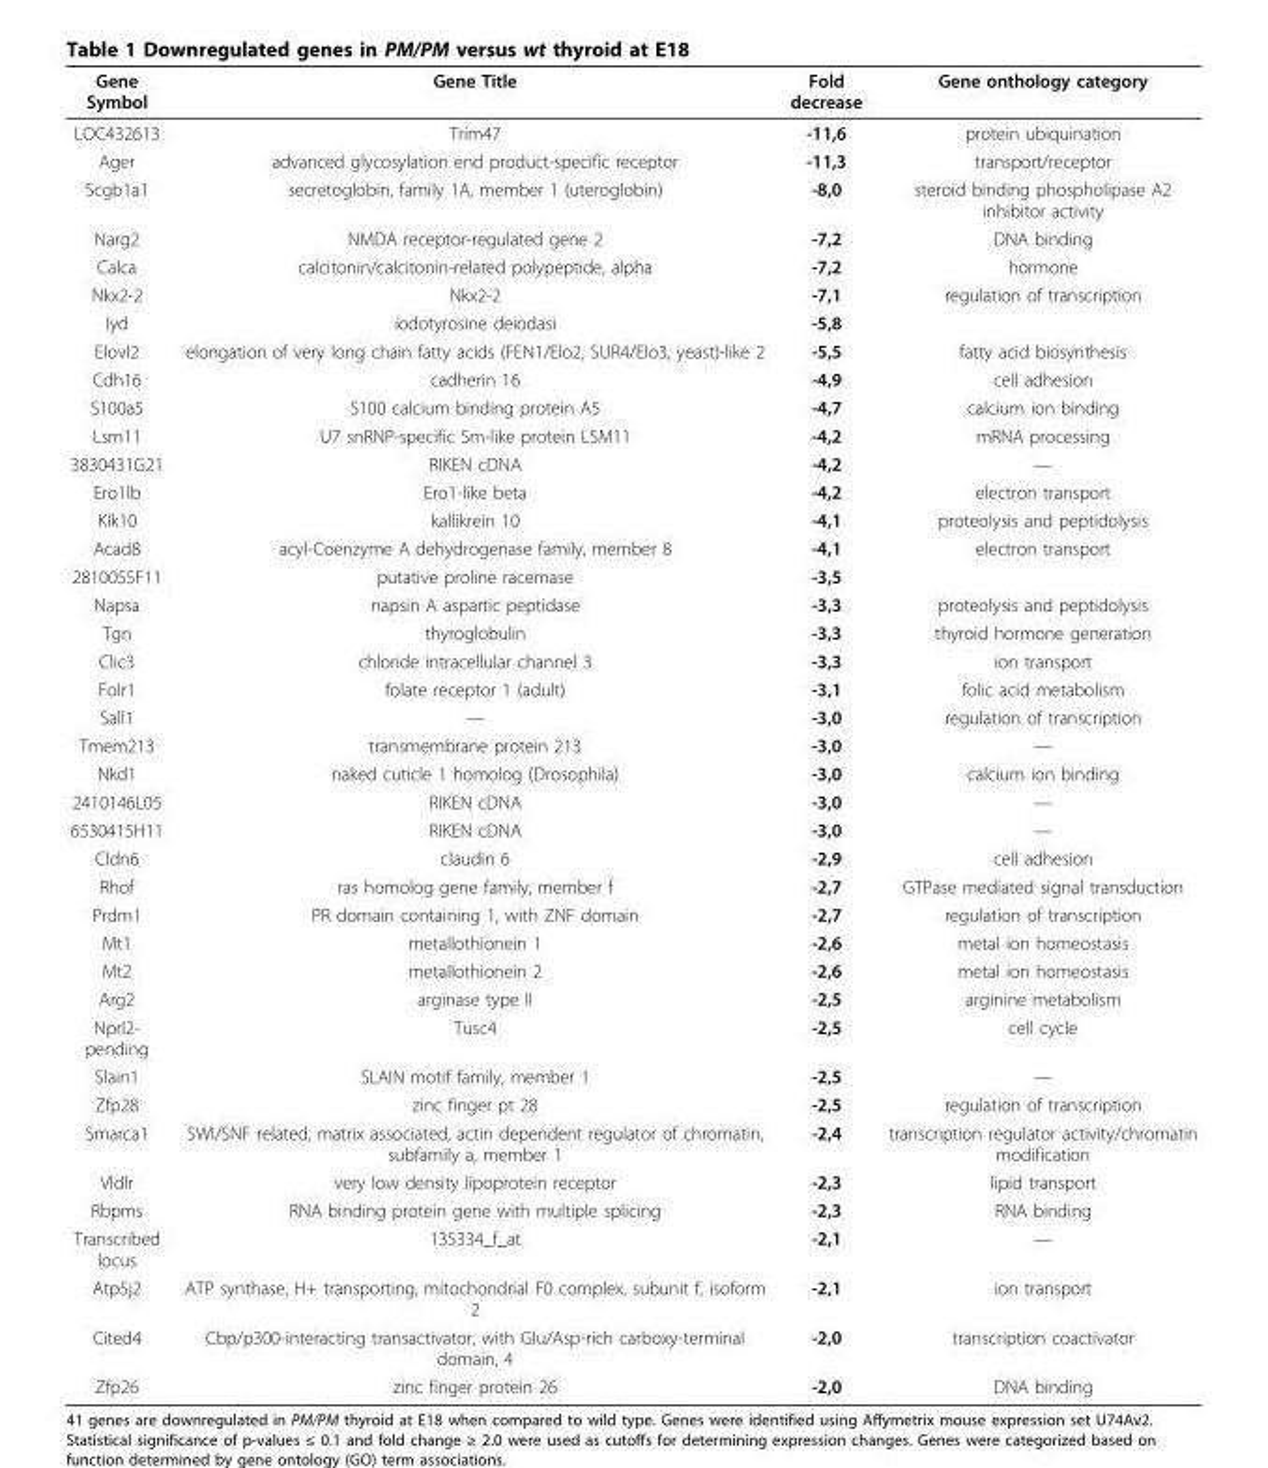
<table><thead><tr><td>Gene Symbol</td><td>Gene Title</td><td>Fold decrease</td><td>Gene onthology category</td></tr></thead><tbody><tr><td>LOC432613</td><td>Trim47</td><td>-11,6</td><td>protein ubiquination</td></tr><tr><td>Ager</td><td>advanced glycosylation end product-specific receptor</td><td>-11,3</td><td>transport/receptor</td></tr><tr><td>Scgb1a1</td><td>secretoglobin, family 1A, member 1 (uteroglobin)</td><td>-8,0</td><td>steroid binding phospholipase A2 inhibitor activity</td></tr><tr><td>Narg2</td><td>NMDA receptor-regulated gene 2</td><td>-7,2</td><td>DNA binding</td></tr><tr><td>Calca</td><td>calcitonin/calcitonin-related polypeptide, alpha</td><td>-7,2</td><td>hormone</td></tr><tr><td>Nkx2-2</td><td>Nkx2-2</td><td>-7,1</td><td>regulation of transcription</td></tr><tr><td>Iyd</td><td>iodotyrosine deiodasi</td><td>-5,8</td><td></td></tr><tr><td>Elovl2</td><td>elongation of very long chain fatty acids (FEN1/Elo2, SUR4/Elo3, yeast)-like 2</td><td>-5,5</td><td>fatty acid biosynthesis</td></tr><tr><td>Cdh16</td><td>cadherin 16</td><td>-4,9</td><td>cell adhesion</td></tr><tr><td>S100a5</td><td>S100 calcium binding protein A5</td><td>-4,7</td><td>calcium ion binding</td></tr><tr><td>Lsm11</td><td>U7 snRNP-specific Sm-like protein LSM11</td><td>-4,2</td><td>mRNA processing</td></tr><tr><td>3830431G21</td><td>RIKEN cDNA</td><td>-4,2</td><td>—</td></tr><tr><td>Ero1lb</td><td>Ero1-like beta</td><td>-4,2</td><td>electron transport</td></tr><tr><td>Klk10</td><td>kallikrein 10</td><td>-4,1</td><td>proteolysis and peptidolysis</td></tr><tr><td>Acad8</td><td>acyl-Coenzyme A dehydrogenase family, member 8</td><td>-4,1</td><td>electron transport</td></tr><tr><td>2810055F11</td><td>putative proline racemase</td><td>-3,5</td><td></td></tr><tr><td>Napsa</td><td>napsin A aspartic peptidase</td><td>-3,3</td><td>proteolysis and peptidolysis</td></tr><tr><td>Tgn</td><td>thyroglobulin</td><td>-3,3</td><td>thyroid hormone generation</td></tr><tr><td>Clic3</td><td>chloride intracellular channel 3</td><td>-3,3</td><td>ion transport</td></tr><tr><td>Folr1</td><td>folate receptor 1 (adult)</td><td>-3,1</td><td>folic acid metabolism</td></tr><tr><td>Sall1</td><td>—</td><td>-3,0</td><td>regulation of transcription</td></tr><tr><td>Tmem213</td><td>transmembrane protein 213</td><td>-3,0</td><td>—</td></tr><tr><td>Nkd1</td><td>naked cuticle 1 homolog (Drosophila)</td><td>-3,0</td><td>calcium ion binding</td></tr><tr><td>2410146L05</td><td>RIKEN cDNA</td><td>-3,0</td><td>—</td></tr><tr><td>6530415H11</td><td>RIKEN cDNA</td><td>-3,0</td><td>—</td></tr><tr><td>Cldn6</td><td>claudin 6</td><td>-2,9</td><td>cell adhesion</td></tr><tr><td>Rhof</td><td>ras homolog gene family, member f</td><td>-2,7</td><td>GTPase mediated signal transduction</td></tr><tr><td>Prdm1</td><td>PR domain containing 1, with ZNF domain</td><td>-2,7</td><td>regulation of transcription</td></tr><tr><td>Mt1</td><td>metallothionein 1</td><td>-2,6</td><td>metal ion homeostasis</td></tr><tr><td>Mt2</td><td>metallothionein 2</td><td>-2,6</td><td>metal ion homeostasis</td></tr><tr><td>Arg2</td><td>arginase type II</td><td>-2,5</td><td>arginine metabolism</td></tr><tr><td>Nprl2- pending</td><td>Tusc4</td><td>-2,5</td><td>cell cycle</td></tr><tr><td>Slain1</td><td>SLAIN motif family, member 1</td><td>-2,5</td><td>—</td></tr><tr><td>Zfp28</td><td>zinc finger pt 28</td><td>-2,5</td><td>regulation of transcription</td></tr><tr><td>Smarca1</td><td>SWI/SNF related, matrix associated, actin dependent regulator of chromatin, subfamily a, member 1</td><td>-2,4</td><td>transcription regulator activity/chromatin modification</td></tr><tr><td>Vldlr</td><td>very low density lipoprotein receptor</td><td>-2,3</td><td>lipid transport</td></tr><tr><td>Rbpms</td><td>RNA binding protein gene with multiple splicing</td><td>-2,3</td><td>RNA binding</td></tr><tr><td>Transcribed locus</td><td>135334_f_at</td><td>-2,1</td><td>—</td></tr><tr><td>Atp5j2</td><td>ATP synthase, H+ transporting, mitochondrial F0 complex, subunit f, isoform 2</td><td>-2,1</td><td>ion transport</td></tr><tr><td>Cited4</td><td>Cbp/p300-interacting transactivator, with Glu/Asp-rich carboxy-terminal domain, 4</td><td>-2,0</td><td>transcription coactivator</td></tr><tr><td>Zfp26</td><td>zinc finger protein 26</td><td>-2,0</td><td>DNA binding</td></tr></tbody></table>